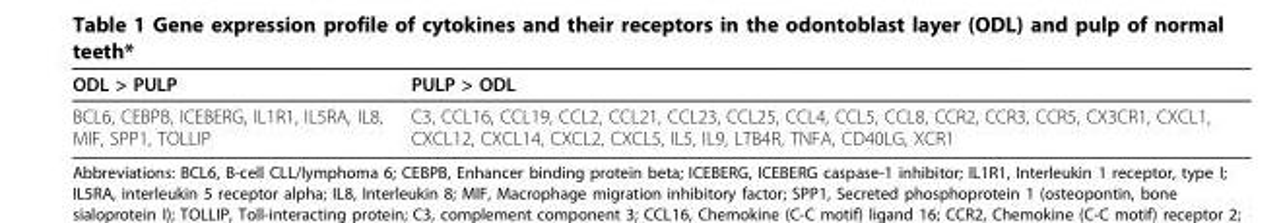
<table><thead><tr><td>ODL &gt; PULP</td><td>PULP &gt; ODL</td></tr></thead><tbody><tr><td>BCL6, CEBPB, ICEBERG, IL1R1, IL5RA, IL8, MIF, SPP1, TOLLIP</td><td>C3, CCL16, CCL19, CCL2, CCL21, CCL23, CCL25, CCL4, CCL5, CCL8, CCR2, CCR3, CCR5, CX3CR1, CXCL1, CXCL12, CXCL14, CXCL2, CXCL5, IL5, IL9, LTB4R, TNFA, CD40LG, XCR1</td></tr></tbody></table>